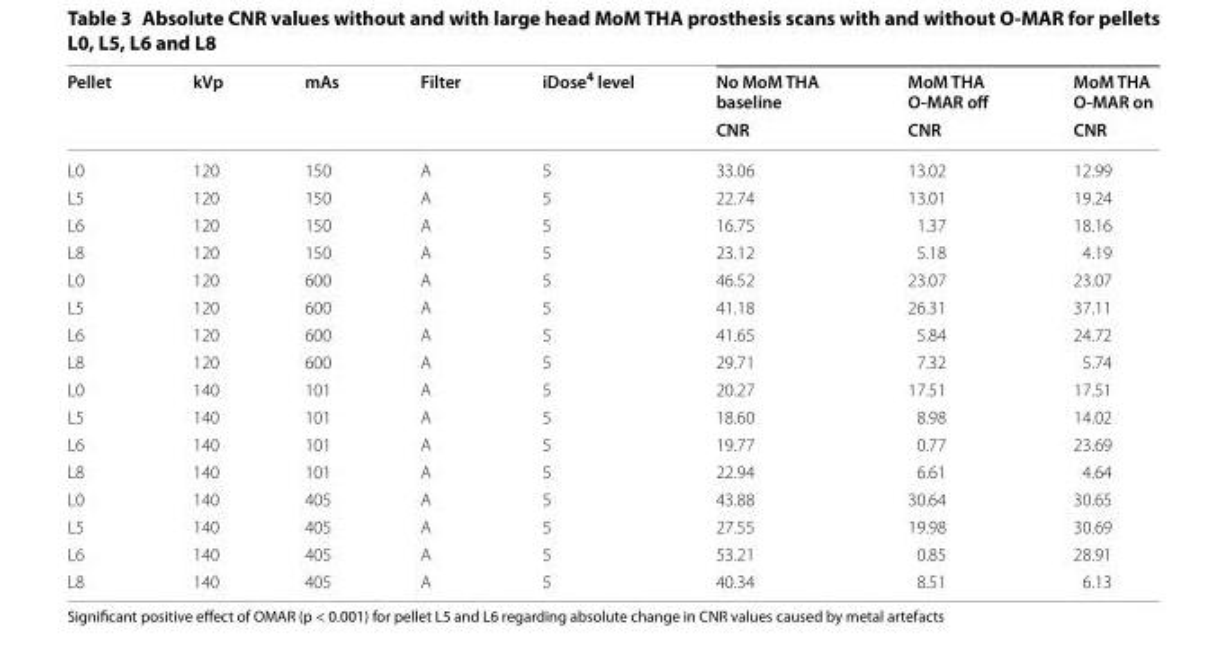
<table><thead><tr><td rowspan="2">Pellet</td><td rowspan="2">kVp</td><td rowspan="2">mAs</td><td rowspan="2">Filter</td><td rowspan="2">iDose<sup>4</sup> level</td><td rowspan="2">No MoM THA baseline CNR</td><td rowspan="2">MoM THA O-MAR off CNR</td><td rowspan="2">MoM THA O-MAR on CNR</td></tr><tr></tr></thead><tbody><tr><td>L0</td><td>120</td><td>150</td><td>A</td><td>5</td><td>33.06</td><td>13.02</td><td>12.99</td></tr><tr><td>L5</td><td>120</td><td>150</td><td>A</td><td>5</td><td>22.74</td><td>13.01</td><td>19.24</td></tr><tr><td>L6</td><td>120</td><td>150</td><td>A</td><td>5</td><td>16.75</td><td>1.37</td><td>18.16</td></tr><tr><td>L8</td><td>120</td><td>150</td><td>A</td><td>5</td><td>23.12</td><td>5.18</td><td>4.19</td></tr><tr><td>L0</td><td>120</td><td>600</td><td>A</td><td>5</td><td>46.52</td><td>23.07</td><td>23.07</td></tr><tr><td>L5</td><td>120</td><td>600</td><td>A</td><td>5</td><td>41.18</td><td>26.31</td><td>37.11</td></tr><tr><td>L6</td><td>120</td><td>600</td><td>A</td><td>5</td><td>41.65</td><td>5.84</td><td>24.72</td></tr><tr><td>L8</td><td>120</td><td>600</td><td>A</td><td>5</td><td>29.71</td><td>7.32</td><td>5.74</td></tr><tr><td>L0</td><td>140</td><td>101</td><td>A</td><td>5</td><td>20.27</td><td>17.51</td><td>17.51</td></tr><tr><td>L5</td><td>140</td><td>101</td><td>A</td><td>5</td><td>18.60</td><td>8.98</td><td>14.02</td></tr><tr><td>L6</td><td>140</td><td>101</td><td>A</td><td>5</td><td>19.77</td><td>0.77</td><td>23.69</td></tr><tr><td>L8</td><td>140</td><td>101</td><td>A</td><td>5</td><td>22.94</td><td>6.61</td><td>4.64</td></tr><tr><td>L0</td><td>140</td><td>405</td><td>A</td><td>5</td><td>43.88</td><td>30.64</td><td>30.65</td></tr><tr><td>L5</td><td>140</td><td>405</td><td>A</td><td>5</td><td>27.55</td><td>19.98</td><td>30.69</td></tr><tr><td>L6</td><td>140</td><td>405</td><td>A</td><td>5</td><td>53.21</td><td>0.85</td><td>28.91</td></tr><tr><td>L8</td><td>140</td><td>405</td><td>A</td><td>5</td><td>40.34</td><td>8.51</td><td>6.13</td></tr></tbody></table>